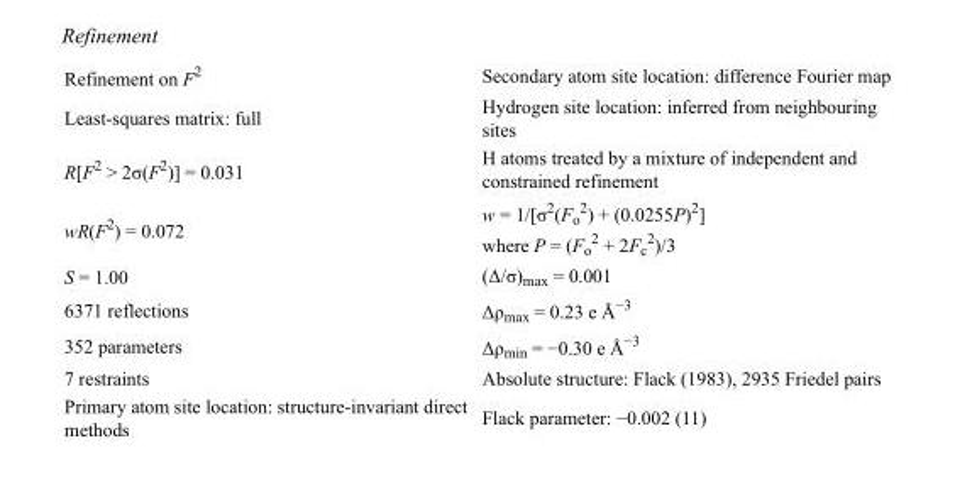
<table><tbody><tr><td>Refinement on F<sup>2</sup></td><td>Secondary atom site location: difference Fourier map</td></tr><tr><td>Least-squares matrix: full</td><td>Hydrogen site location: inferred from neighbouring sites</td></tr><tr><td>R[F<sup>2</sup> &gt; 2σ(F<sup>2</sup>)] = 0.031</td><td>H atoms treated by a mixture of independent and constrained refinement</td></tr><tr><td>wR(F<sup>2</sup>) = 0.072</td><td>w = 1/[σ<sup>2</sup>(F<sub>o</sub> <sup>2</sup>) + (0.0255P)<sup>2</sup>] where P = (F<sub>o</sub> <sup>2</sup> + 2F<sub>c</sub> <sup>2</sup>)/3</td></tr><tr><td>S = 1.00</td><td>(Δ/σ)<sub>max</sub> = 0.001</td></tr><tr><td>6371 reflections</td><td>Δρ<sub>max</sub> = 0.23 e Å<sup>−3</sup></td></tr><tr><td>352 parameters</td><td>Δρ<sub>min</sub> = −0.30 e Å<sup>−3</sup></td></tr><tr><td>7 restraints</td><td>Absolute structure: Flack (1983), 2935 Friedel pairs</td></tr><tr><td>Primary atom site location: structure-invariant direct methods</td><td>Flack parameter: −0.002 (11)</td></tr></tbody></table>